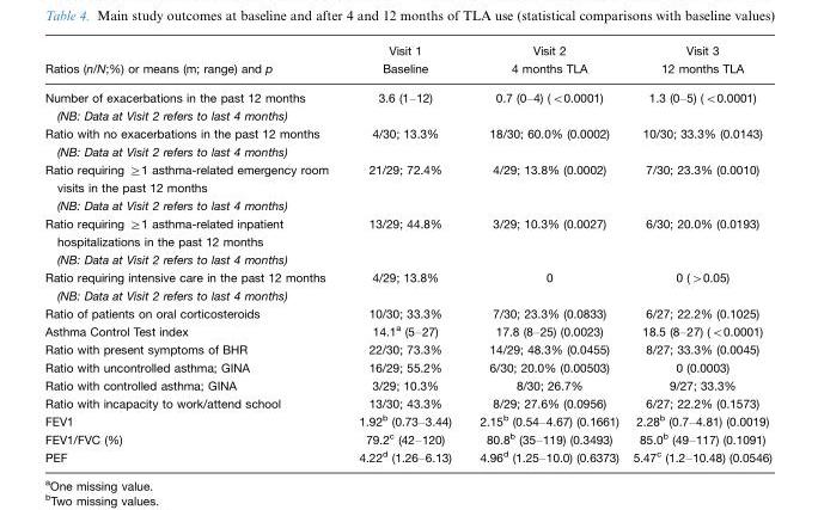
<table><thead><tr><td>Ratios (n/N;%) or means (m; range) and p</td><td>Visit 1 Baseline</td><td>Visit 2 4 months TLA</td><td>Visit 3 12 months TLA</td></tr></thead><tbody><tr><td>Number of exacerbations in the past 12 months (NB: Data at Visit 2 refers to last 4 months)</td><td>3.6 (1–12)</td><td>0.7 (0–4) (&lt;0.0001)</td><td>1.3 (0–5) (&lt;0.0001)</td></tr><tr><td>Ratio with no exacerbations in the past 12 months (NB: Data at Visit 2 refers to last 4 months)</td><td>4/30; 13.3%</td><td>18/30; 60.0% (0.0002)</td><td>10/30; 33.3% (0.0143)</td></tr><tr><td>Ratio requiring ≥1 asthma-related emergency room visits in the past 12 months (NB: Data at Visit 2 refers to last 4 months)</td><td>21/29; 72.4%</td><td>4/29; 13.8% (0.0002)</td><td>7/30; 23.3% (0.0010)</td></tr><tr><td>Ratio requiring ≥1 asthma-related inpatient hospitalizations in the past 12 months (NB: Data at Visit 2 refers to last 4 months)</td><td>13/29; 44.8%</td><td>3/29; 10.3% (0.0027)</td><td>6/30; 20.0% (0.0193)</td></tr><tr><td>Ratio requiring intensive care in the past 12 months (NB: Data at Visit 2 refers to last 4 months)</td><td>4/29; 13.8%</td><td>0</td><td>0 (&gt;0.05)</td></tr><tr><td>Ratio of patients on oral corticosteroids</td><td>10/30; 33.3%</td><td>7/30; 23.3% (0.0833)</td><td>6/27; 22.2% (0.1025)</td></tr><tr><td>Asthma Control Test index</td><td>14.1<sup>a</sup> (5–27)</td><td>17.8 (8–25) (0.0023)</td><td>18.5 (8–27) (&lt;0.0001)</td></tr><tr><td>Ratio with present symptoms of BHR</td><td>22/30; 73.3%</td><td>14/29; 48.3% (0.0455)</td><td>8/27; 33.3% (0.0045)</td></tr><tr><td>Ratio with uncontrolled asthma; GINA</td><td>16/29; 55.2%</td><td>6/30; 20.0% (0.00503)</td><td>0 (0.0003)</td></tr><tr><td>Ratio with controlled asthma; GINA</td><td>3/29; 10.3%</td><td>8/30; 26.7%</td><td>9/27; 33.3%</td></tr><tr><td>Ratio with incapacity to work/attend school</td><td>13/30; 43.3%</td><td>8/29; 27.6% (0.0956)</td><td>6/27; 22.2% (0.1573)</td></tr><tr><td>FEV1</td><td>1.92<sup>b</sup> (0.73–3.44)</td><td>2.15<sup>b</sup> (0.54–4.67) (0.1661)</td><td>2.28<sup>b</sup> (0.7–4.81) (0.0019)</td></tr><tr><td>FEV1/FVC (%)</td><td>79.2<sup>c</sup> (42–120)</td><td>80.8<sup>b</sup> (35–119) (0.3493)</td><td>85.0<sup>b</sup> (49–117) (0.1091)</td></tr><tr><td>PEF</td><td>4.22d (1.26�6.13)</td><td>4.96<sup>d</sup> (1.25–10.0) (0.6373)</td><td>5.47<sup>c</sup> (1.2–10.48) (0.0546)</td></tr></tbody></table>